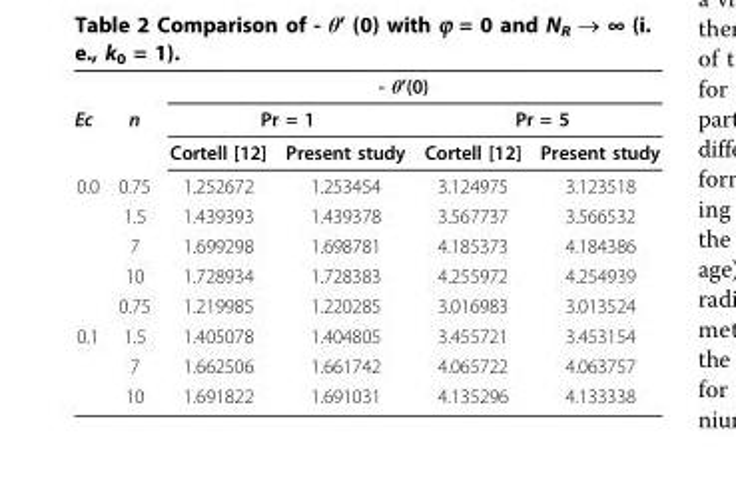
<table><thead><tr><td rowspan="3">Ec</td><td rowspan="3">n</td><td></td><td colspan="2">- θ’(0)</td><td></td></tr><tr><td colspan="2">Pr = 1</td><td colspan="2">Pr = 5</td></tr><tr><td>Cortell [12]</td><td>Present study</td><td>Cortell [12]</td><td>Present study</td></tr></thead><tbody><tr><td rowspan="5">0.0</td><td>0.75</td><td>1.252672</td><td>1.253454</td><td>3.124975</td><td>3.123518</td></tr><tr><td>1.5</td><td>1.439393</td><td>1.439378</td><td>3.567737</td><td>3.566532</td></tr><tr><td>7</td><td>1.699298</td><td>1.698781</td><td>4.185373</td><td>4.184386</td></tr><tr><td>10</td><td>1.728934</td><td>1.728383</td><td>4.255972</td><td>4.254939</td></tr><tr><td>0.75</td><td>1.219985</td><td>1.220285</td><td>3.016983</td><td>3.013524</td></tr><tr><td rowspan="3">0.1</td><td>1.5</td><td>1.405078</td><td>1.404805</td><td>3.455721</td><td>3.453154</td></tr><tr><td>7</td><td>1.662506</td><td>1.661742</td><td>4.065722</td><td>4.063757</td></tr><tr><td>10</td><td>1.691822</td><td>1.691031</td><td>4.135296</td><td>4.133338</td></tr></tbody></table>